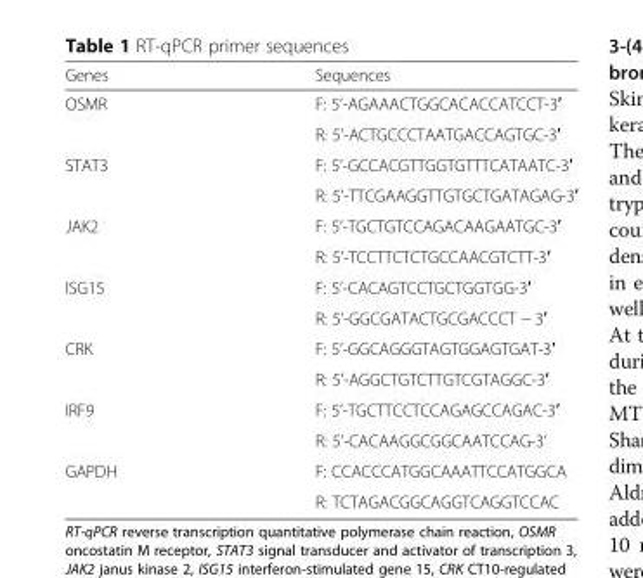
<table><thead><tr><td>Genes</td><td>Sequences</td></tr></thead><tbody><tr><td rowspan="2">OSMR</td><td>F: 5’-AGAAACTGGCACACCATCCT-3′</td></tr><tr><td>R: 5’-ACTGCCCTAATGACCAGTGC-3′</td></tr><tr><td rowspan="2">STAT3</td><td>F: 5’-GCCACGTTGGTGTTTCATAATC-3′</td></tr><tr><td>R: 5’-TTCGAAGGTTGTGCTGATAGAG-3′</td></tr><tr><td rowspan="2">JAK2</td><td>F: 5’-TGCTGTCCAGACAAGAATGC-3′</td></tr><tr><td>R: 5’-TCCTTCTCTGCCAACGTCTT-3′</td></tr><tr><td rowspan="2">ISG15</td><td>F: 5’-CACAGTCCTGCTGGTGG-3′</td></tr><tr><td>R: 5’-GGCGATACTGCGACCCT − 3′</td></tr><tr><td rowspan="2">CRK</td><td>F: 5’-GGCAGGGTAGTGGAGTGAT-3′</td></tr><tr><td>R: 5’-AGGCTGTCTTGTCGTAGGC-3′</td></tr><tr><td rowspan="2">IRF9</td><td>F: 5’-TGCTTCCTCCAGAGCCAGAC-3′</td></tr><tr><td>R: 5’-CACAAGGCGGCAATCCAG-3’</td></tr><tr><td rowspan="2">GAPDH</td><td>F: CCACCCATGGCAAATTCCATGGCA</td></tr><tr><td>R: TCTAGACGGCAGGTCAGGTCCAC</td></tr></tbody></table>